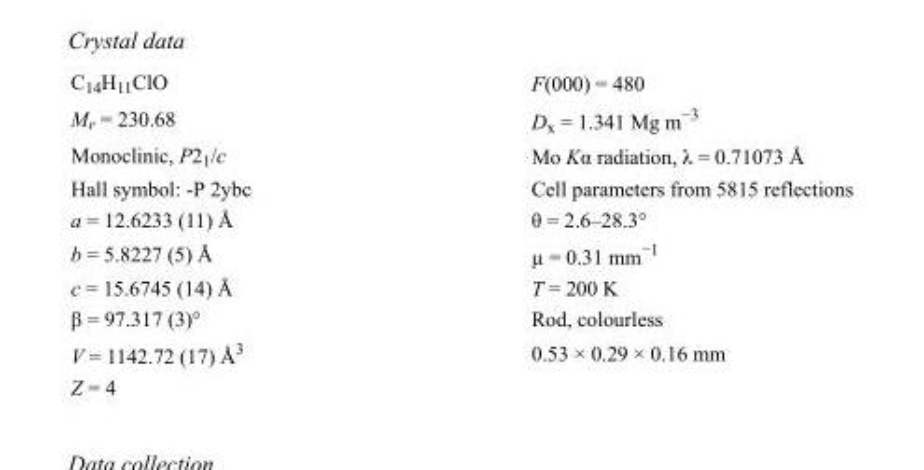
<table><tbody><tr><td>C<sub>14</sub>H<sub>11</sub>ClO</td><td>F(000) = 480</td></tr><tr><td>M<sub>r</sub> = 230.68</td><td>D<sub>x</sub> = 1.341 Mg m<sup>−3</sup></td></tr><tr><td>Monoclinic, P2<sub>1</sub>/c</td><td>Mo Kα radiation, λ = 0.71073 Å</td></tr><tr><td>Hall symbol: -P 2ybc</td><td>Cell parameters from 5815 reflections</td></tr><tr><td>a = 12.6233 (11) Å</td><td>θ = 2.6–28.3°</td></tr><tr><td>b = 5.8227 (5) Å</td><td>µ = 0.31 mm<sup>−1</sup></td></tr><tr><td>c = 15.6745 (14) Å</td><td>T = 200 K</td></tr><tr><td>β = 97.317 (3)°</td><td>Rod, colourless</td></tr><tr><td>V = 1142.72 (17) Å<sup>3</sup></td><td>0.53 × 0.29 × 0.16 mm</td></tr><tr><td>Z = 4</td><td></td></tr></tbody></table>